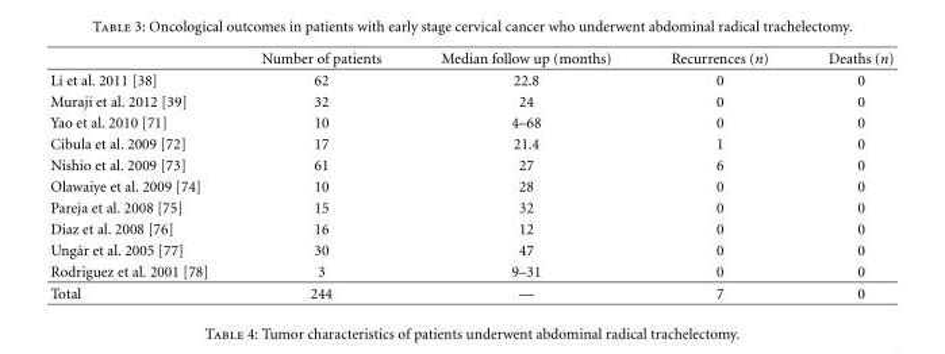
<table><thead><tr><td></td><td>Number of patients</td><td>Median follow up (months)</td><td>Recurrences (n)</td><td>Deaths (n)</td></tr></thead><tbody><tr><td>Li et al. 2011 [38]</td><td>62</td><td>22.8</td><td>0</td><td>0</td></tr><tr><td>Muraji et al. 2012 [39]</td><td>32</td><td>24</td><td>0</td><td>0</td></tr><tr><td>Yao et al. 2010 [71]</td><td>10</td><td>4–68</td><td>0</td><td>0</td></tr><tr><td>Cibula et al. 2009 [72]</td><td>17</td><td>21.4</td><td>1</td><td>0</td></tr><tr><td>Nishio et al. 2009 [73]</td><td>61</td><td>27</td><td>6</td><td>0</td></tr><tr><td>Olawaiye et al. 2009 [74]</td><td>10</td><td>28</td><td>0</td><td>0</td></tr><tr><td>Pareja et al. 2008 [75]</td><td>15</td><td>32</td><td>0</td><td>0</td></tr><tr><td>Diaz et al. 2008 [76]</td><td>16</td><td>12</td><td>0</td><td>0</td></tr><tr><td>Ung´ar et al. 2005 [77]</td><td>30</td><td>47</td><td>0</td><td>0</td></tr><tr><td>Rodriguez et al. 2001 [78]</td><td>3</td><td>9–31</td><td>0</td><td>0</td></tr><tr><td>Total</td><td>244</td><td>—</td><td>7</td><td>0</td></tr></tbody></table>